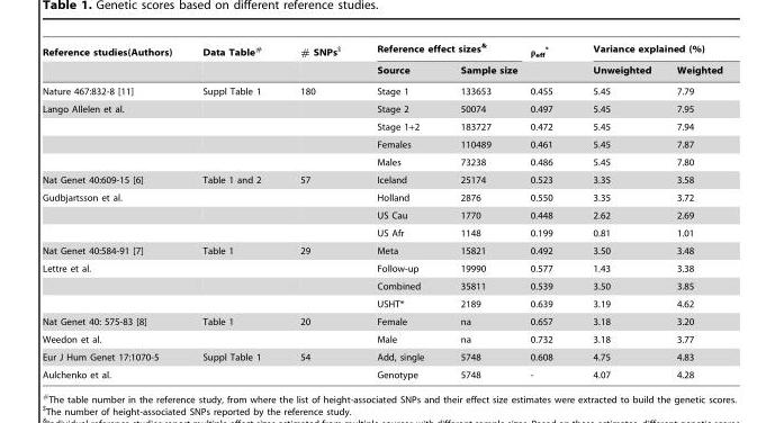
<table><thead><tr><td rowspan="2">Reference studies(Authors)</td><td rowspan="2">Data Table#</td><td rowspan="2"># SNPs$</td><td colspan="2">Reference effect sizes&amp;</td><td rowspan="2">ρ<sub>eff</sub> *</td><td colspan="2">Variance explained (%)</td></tr><tr><td>Source</td><td>Sample size</td><td>Unweighted</td><td>Weighted</td></tr></thead><tbody><tr><td>Nature 467:832-8 [11]</td><td>Suppl Table 1</td><td>180</td><td>Stage 1</td><td>133653</td><td>0.455</td><td>5.45</td><td>7.79</td></tr><tr><td rowspan="4">Lango Allelen et al.</td><td></td><td></td><td>Stage 2</td><td>50074</td><td>0.497</td><td>5.45</td><td>7.95</td></tr><tr><td></td><td></td><td>Stage 1+2</td><td>183727</td><td>0.472</td><td>5.45</td><td>7.94</td></tr><tr><td></td><td></td><td>Females</td><td>110489</td><td>0.461</td><td>5.45</td><td>7.87</td></tr><tr><td></td><td></td><td>Males</td><td>73238</td><td>0.486</td><td>5.45</td><td>7.80</td></tr><tr><td>Nat Genet 40:609-15 [6]</td><td>Table 1 and 2</td><td>57</td><td>Iceland</td><td>25174</td><td>0.523</td><td>3.35</td><td>3.58</td></tr><tr><td rowspan="3">Gudbjartsson et al.</td><td></td><td></td><td>Holland</td><td>2876</td><td>0.550</td><td>3.35</td><td>3.72</td></tr><tr><td></td><td></td><td>US Cau</td><td>1770</td><td>0.448</td><td>2.62</td><td>2.69</td></tr><tr><td></td><td></td><td>US Afr</td><td>1148</td><td>0.199</td><td>0.81</td><td>1.01</td></tr><tr><td>Nat Genet 40:584-91 [7]</td><td>Table 1</td><td>29</td><td>Meta</td><td>15821</td><td>0.492</td><td>3.50</td><td>3.48</td></tr><tr><td rowspan="3">Lettre et al.</td><td></td><td></td><td>Follow-up</td><td>19990</td><td>0.577</td><td>1.43</td><td>3.38</td></tr><tr><td></td><td></td><td>Combined</td><td>35811</td><td>0.539</td><td>3.50</td><td>3.85</td></tr><tr><td></td><td></td><td>USHT*</td><td>2189</td><td>0.639</td><td>3.19</td><td>4.62</td></tr><tr><td>Nat Genet 40: 575-83 [8]</td><td>Table 1</td><td>20</td><td>Female</td><td>na</td><td>0.657</td><td>3.18</td><td>3.20</td></tr><tr><td>Weedon et al.</td><td></td><td></td><td>Male</td><td>na</td><td>0.732</td><td>3.18</td><td>3.77</td></tr><tr><td>Eur J Hum Genet 17:1070-5</td><td>Suppl Table 1</td><td>54</td><td>Add, single</td><td>5748</td><td>0.608</td><td>4.75</td><td>4.83</td></tr><tr><td>Aulchenko et al.</td><td></td><td></td><td>Genotype</td><td>5748</td><td>-</td><td>4.07</td><td>4.28</td></tr></tbody></table>